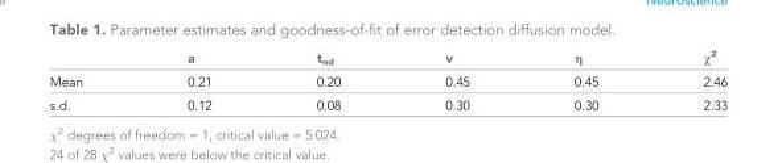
<table><thead><tr><td></td><td>a</td><td>t<sub>nd</sub></td><td>v</td><td>η</td><td>χ<sup>2</sup></td></tr></thead><tbody><tr><td>Mean</td><td>0.21</td><td>0.20</td><td>0.45</td><td>0.45</td><td>2.46</td></tr><tr><td>s.d.</td><td>0.12</td><td>0.08</td><td>0.30</td><td>0.30</td><td>2.33</td></tr></tbody></table>